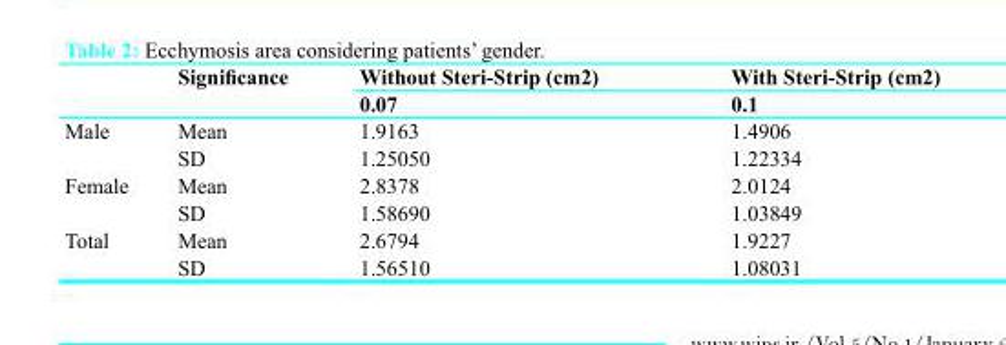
<table><thead><tr><td rowspan="2"></td><td rowspan="2">Significance</td><td rowspan="2">Without Steri-Strip (cm2) 0.07</td><td rowspan="2">With Steri-Strip (cm2) 0.1</td></tr><tr></tr></thead><tbody><tr><td rowspan="2">Male</td><td>Mean</td><td>1.9163</td><td>1.4906</td></tr><tr><td>SD</td><td>1.25050</td><td>1.22334</td></tr><tr><td rowspan="2">Female</td><td>Mean</td><td>2.8378</td><td>2.0124</td></tr><tr><td>SD</td><td>1.58690</td><td>1.03849</td></tr><tr><td rowspan="2">Total</td><td>Mean</td><td>2.6794</td><td>1.9227</td></tr><tr><td>SD</td><td>1.56510</td><td>1.08031</td></tr></tbody></table>